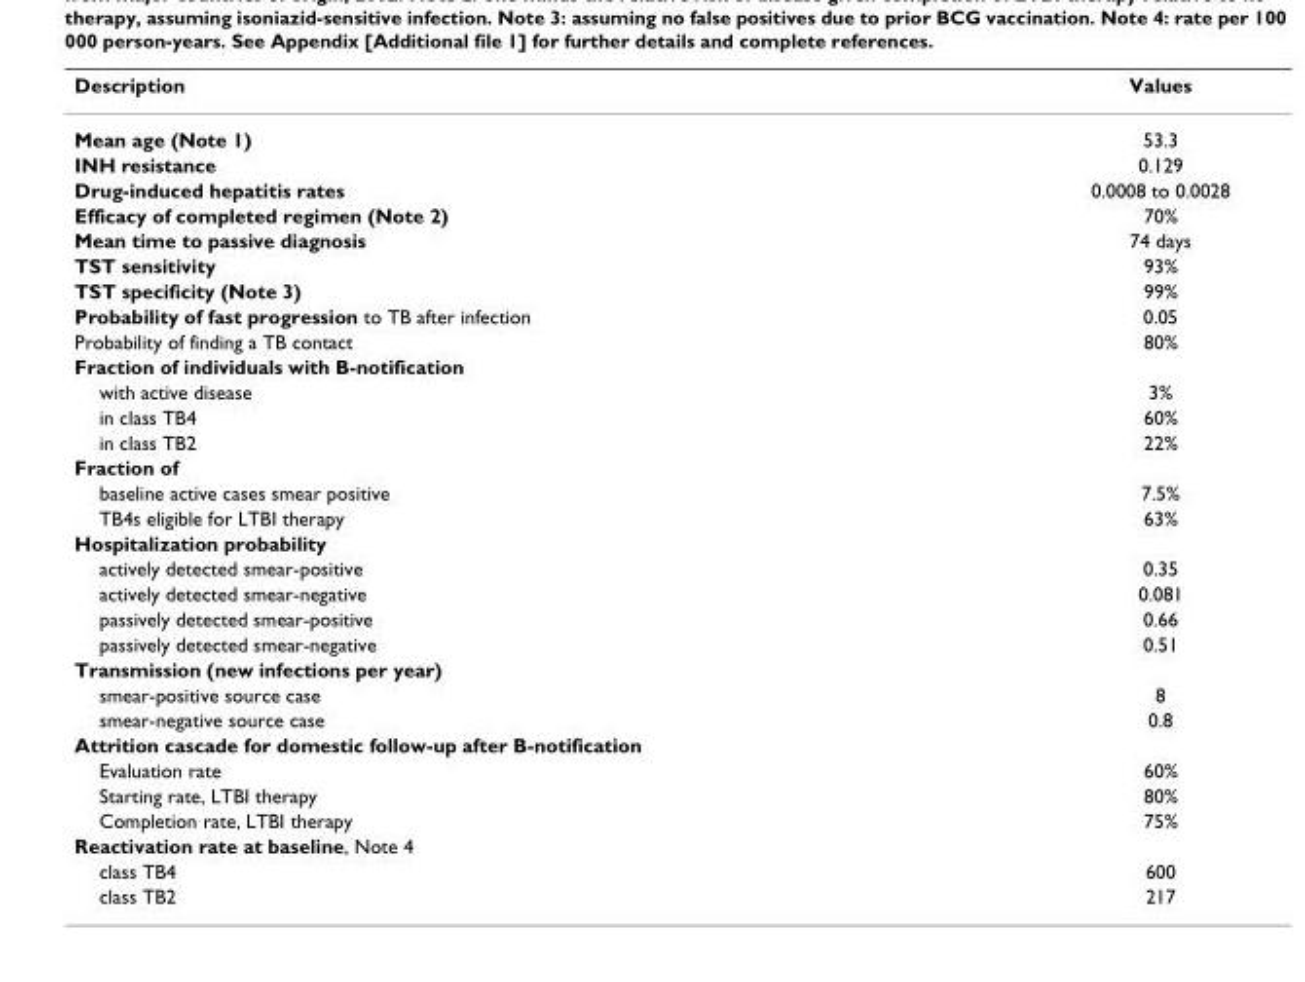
<table><thead><tr><td>Description</td><td>Values</td></tr></thead><tbody><tr><td>Mean age (Note 1)</td><td>53.3</td></tr><tr><td>INH resistance</td><td>0.129</td></tr><tr><td>Drug-induced hepatitis rates</td><td>0.0008 to 0.0028</td></tr><tr><td>Efficacy of completed regimen (Note 2)</td><td>70%</td></tr><tr><td>Mean time to passive diagnosis</td><td>74 days</td></tr><tr><td>TST sensitivity</td><td>93%</td></tr><tr><td>TST specificity (Note 3)</td><td>99%</td></tr><tr><td>Probability of fast progression to TB after infection</td><td>0.05</td></tr><tr><td>Probability of finding a TB contact</td><td>80%</td></tr><tr><td colspan="2">Fraction of individuals with B-notification</td></tr><tr><td>with active disease</td><td>3%</td></tr><tr><td>in class TB4</td><td>60%</td></tr><tr><td>in class TB2</td><td>22%</td></tr><tr><td colspan="2">Fraction of</td></tr><tr><td>baseline active cases smear positive</td><td>7.5%</td></tr><tr><td>TB4s eligible for LTBI therapy</td><td>63%</td></tr><tr><td colspan="2">Hospitalization probability</td></tr><tr><td>actively detected smear-positive</td><td>0.35</td></tr><tr><td>actively detected smear-negative</td><td>0.081</td></tr><tr><td>passively detected smear-positive</td><td>0.66</td></tr><tr><td>passively detected smear-negative</td><td>0.51</td></tr><tr><td colspan="2">Transmission (new infections per year)</td></tr><tr><td>smear-positive source case</td><td>8</td></tr><tr><td>smear-negative source case</td><td>0.8</td></tr><tr><td colspan="2">Attrition cascade for domestic follow-up after B-notification</td></tr><tr><td>Evaluation rate</td><td>60%</td></tr><tr><td>Starting rate, LTBI therapy</td><td>80%</td></tr><tr><td>Completion rate, LTBI therapy</td><td>75%</td></tr><tr><td colspan="2">Reactivation rate at baseline, Note 4</td></tr><tr><td>class TB4</td><td>600</td></tr><tr><td>class TB2</td><td>217</td></tr></tbody></table>